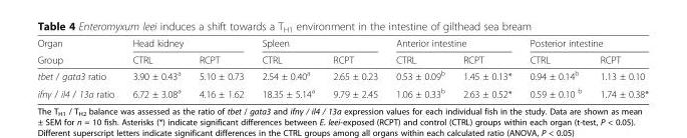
<table><thead><tr><td rowspan="2">Organ Group</td><td colspan="2">Head kidney</td><td colspan="2">Spleen</td><td colspan="2">Anterior intestine</td><td colspan="2">Posterior intestine</td></tr><tr><td>CTRL</td><td>RCPT</td><td>CTRL</td><td>RCPT</td><td>CTRL</td><td>RCPT</td><td>CTRL</td><td>RCPT</td></tr></thead><tbody><tr><td>tbet / gata3 ratio</td><td>3.90 ± 0.43<sup>a</sup></td><td>5.10 ± 0.73</td><td>2.54 ± 0.40<sup>a</sup></td><td>2.65 ± 0.23</td><td>0.53 ± 0.09<sup>b</sup></td><td>1.45 ± 0.13*</td><td>0.94 ± 0.14<sup>b</sup></td><td>1.13 ± 0.10</td></tr><tr><td>ifnγ / il4 / 13a ratio</td><td>6.72 ± 3.08<sup>a</sup></td><td>4.16 ± 1.62</td><td>18.35 ± 5.14<sup>a</sup></td><td>9.79 ± 2.45</td><td>1.06 ± 0.33<sup>b</sup></td><td>2.63 ± 0.52*</td><td>0.59 ± 0.10 <sup>b</sup></td><td>1.74 ± 0.38*</td></tr></tbody></table>